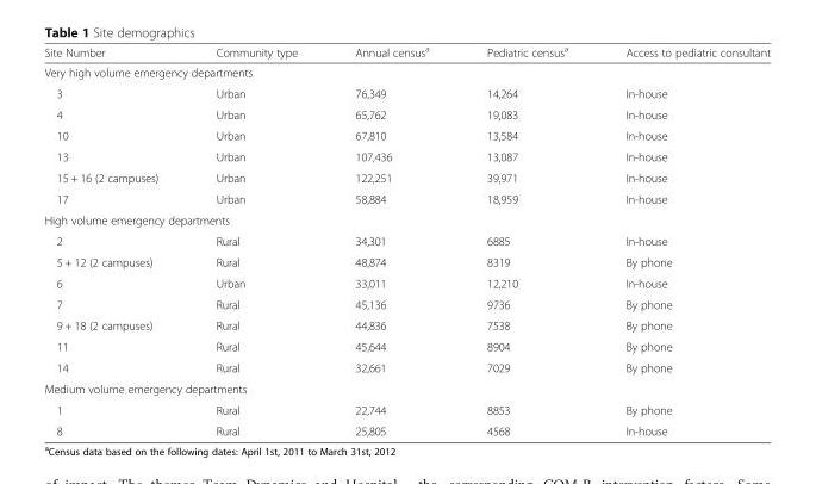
<table><thead><tr><td>Site Number</td><td>Community type</td><td>Annual census<sup>a</sup></td><td>Pediatric census<sup>a</sup></td><td>Access to pediatric consultant</td></tr></thead><tbody><tr><td colspan="5">Very high volume emergency departments</td></tr><tr><td>3</td><td>Urban</td><td>76,349</td><td>14,264</td><td>In-house</td></tr><tr><td>4</td><td>Urban</td><td>65,762</td><td>19,083</td><td>In-house</td></tr><tr><td>10</td><td>Urban</td><td>67,810</td><td>13,584</td><td>In-house</td></tr><tr><td>13</td><td>Urban</td><td>107,436</td><td>13,087</td><td>In-house</td></tr><tr><td>15 + 16 (2 campuses)</td><td>Urban</td><td>122,251</td><td>39,971</td><td>In-house</td></tr><tr><td>17</td><td>Urban</td><td>58,884</td><td>18,959</td><td>In-house</td></tr><tr><td colspan="5">High volume emergency departments</td></tr><tr><td>2</td><td>Rural</td><td>34,301</td><td>6885</td><td>In-house</td></tr><tr><td>5 + 12 (2 campuses)</td><td>Rural</td><td>48,874</td><td>8319</td><td>By phone</td></tr><tr><td>6</td><td>Urban</td><td>33,011</td><td>12,210</td><td>In-house</td></tr><tr><td>7</td><td>Rural</td><td>45,136</td><td>9736</td><td>By phone</td></tr><tr><td>9 + 18 (2 campuses)</td><td>Rural</td><td>44,836</td><td>7538</td><td>By phone</td></tr><tr><td>11</td><td>Rural</td><td>45,644</td><td>8904</td><td>By phone</td></tr><tr><td>14</td><td>Rural</td><td>32,661</td><td>7029</td><td>By phone</td></tr><tr><td colspan="5">Medium volume emergency departments</td></tr><tr><td>1</td><td>Rural</td><td>22,744</td><td>8853</td><td>By phone</td></tr><tr><td>8</td><td>Rural</td><td>25,805</td><td>4568</td><td>In-house</td></tr></tbody></table>